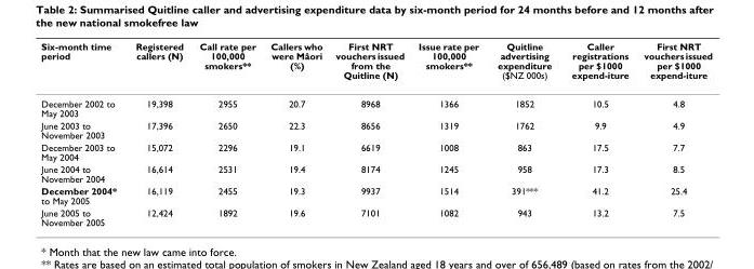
<table><thead><tr><td>Six-month time period</td><td>Registered callers (N)</td><td>Call rate per 100,000 smokers**</td><td>Callers who were Mâori (%)</td><td>First NRT vouchers issued from the Quitline (N)</td><td>Issue rate per 100,000 smokers**</td><td>Quitline advertising expenditure ($NZ 000s)</td><td>Caller registrations per $1000 expend-iture</td><td>First NRT vouchers issued per $1000 expend-iture</td></tr></thead><tbody><tr><td>December 2002 to May 2003</td><td>19,398</td><td>2955</td><td>20.7</td><td>8968</td><td>1366</td><td>1852</td><td>10.5</td><td>4.8</td></tr><tr><td>June 2003 to November 2003</td><td>17,396</td><td>2650</td><td>22.3</td><td>8656</td><td>1319</td><td>1762</td><td>9.9</td><td>4.9</td></tr><tr><td>December 2003 to May 2004</td><td>15,072</td><td>2296</td><td>19.1</td><td>6619</td><td>1008</td><td>863</td><td>17.5</td><td>7.7</td></tr><tr><td>June 2004 to November 2004</td><td>16,614</td><td>2531</td><td>19.4</td><td>8174</td><td>1245</td><td>958</td><td>17.3</td><td>8.5</td></tr><tr><td>December 2004* to May 2005</td><td>16,119</td><td>2455</td><td>19.3</td><td>9937</td><td>1514</td><td>391***</td><td>41.2</td><td>25.4</td></tr><tr><td>June 2005 to November 2005</td><td>12,424</td><td>1892</td><td>19.6</td><td>7101</td><td>1082</td><td>943</td><td>13.2</td><td>7.5</td></tr></tbody></table>